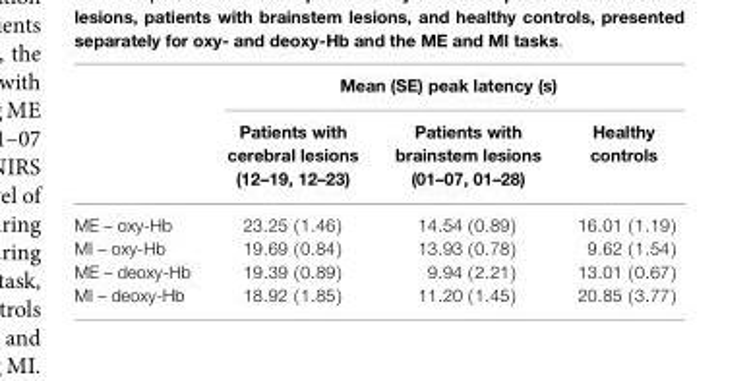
<table><thead><tr><td rowspan="2"></td><td colspan="3">Mean (SE) peak latency (s)</td></tr><tr><td>Patients with cerebral lesions (12–19, 12–23)</td><td>Patients with brainstem lesions (01–07, 01–28)</td><td>Healthy controls</td></tr></thead><tbody><tr><td>ME – oxy-Hb</td><td>23.25 (1.46)</td><td>14.54 (0.89)</td><td>16.01 (1.19)</td></tr><tr><td>MI – oxy-Hb</td><td>19.69 (0.84)</td><td>13.93 (0.78)</td><td>9.62 (1.54)</td></tr><tr><td>ME – deoxy-Hb</td><td>19.39 (0.89)</td><td>9.94 (2.21)</td><td>13.01 (0.67)</td></tr><tr><td>MI – deoxy-Hb</td><td>18.92 (1.85)</td><td>11.20 (1.45)</td><td>20.85 (3.77)</td></tr></tbody></table>